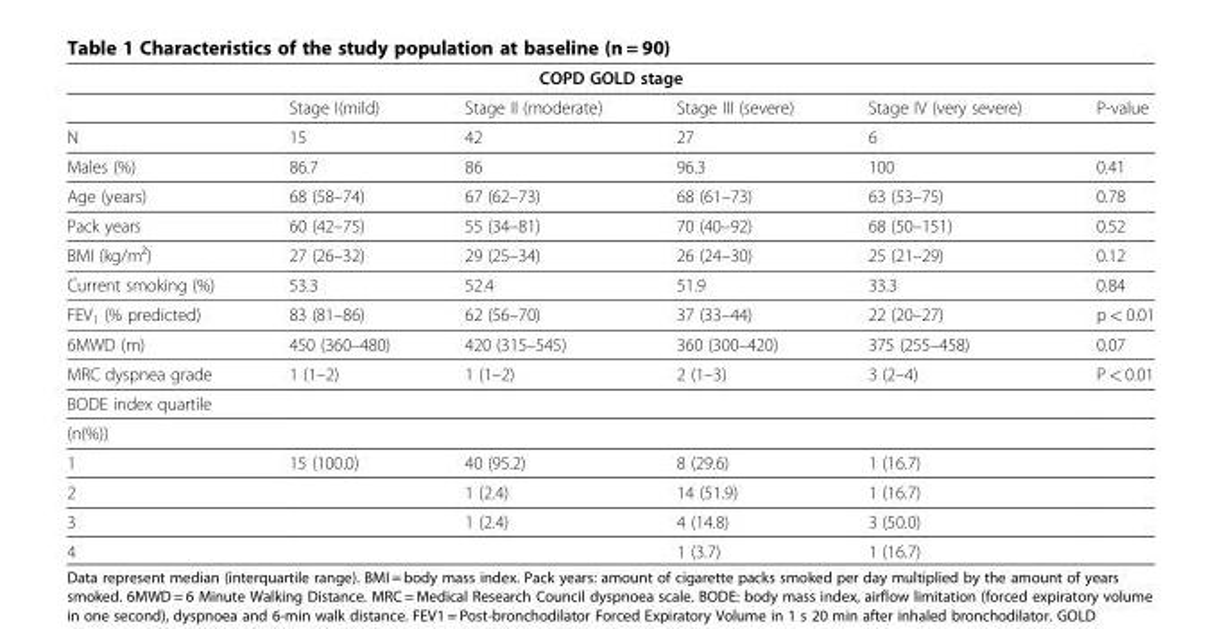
<table><thead><tr><td colspan="6">COPD GOLD stage</td></tr><tr><td></td><td>Stage I(mild)</td><td>Stage II (moderate)</td><td>Stage III (severe)</td><td>Stage IV (very severe)</td><td>P-value</td></tr></thead><tbody><tr><td>N</td><td>15</td><td>42</td><td>27</td><td>6</td><td></td></tr><tr><td>Males (%)</td><td>86.7</td><td>86</td><td>96.3</td><td>100</td><td>0.41</td></tr><tr><td>Age (years)</td><td>68 (58–74)</td><td>67 (62–73)</td><td>68 (61–73)</td><td>63 (53–75)</td><td>0.78</td></tr><tr><td>Pack years</td><td>60 (42–75)</td><td>55 (34–81)</td><td>70 (40–92)</td><td>68 (50–151)</td><td>0.52</td></tr><tr><td>BMI (kg/m²)</td><td>27 (26–32)</td><td>29 (25–34)</td><td>26 (24–30)</td><td>25 (21–29)</td><td>0.12</td></tr><tr><td>Current smoking (%)</td><td>53.3</td><td>52.4</td><td>51.9</td><td>33.3</td><td>0.84</td></tr><tr><td>FEV<sub>1</sub> (% predicted)</td><td>83 (81–86)</td><td>62 (56–70)</td><td>37 (33–44)</td><td>22 (20–27)</td><td>p &lt; 0.01</td></tr><tr><td>6MWD (m)</td><td>450 (360–480)</td><td>420 (315–545)</td><td>360 (300–420)</td><td>375 (255–458)</td><td>0.07</td></tr><tr><td>MRC dyspnea grade</td><td>1 (1–2)</td><td>1 (1–2)</td><td>2 (1–3)</td><td>3 (2–4)</td><td>P &lt; 0.01</td></tr><tr><td colspan="6">BODE index quartile</td></tr><tr><td colspan="6">(n(%))</td></tr><tr><td>1</td><td>15 (100.0)</td><td>40 (95.2)</td><td>8 (29.6)</td><td>1 (16.7)</td><td></td></tr><tr><td>2</td><td></td><td>1 (2.4)</td><td>14 (51.9)</td><td>1 (16.7)</td><td></td></tr><tr><td>3</td><td></td><td>1 (2.4)</td><td>4 (14.8)</td><td>3 (50.0)</td><td></td></tr><tr><td>4</td><td></td><td></td><td>1 (3.7)</td><td>1 (16.7)</td><td></td></tr></tbody></table>